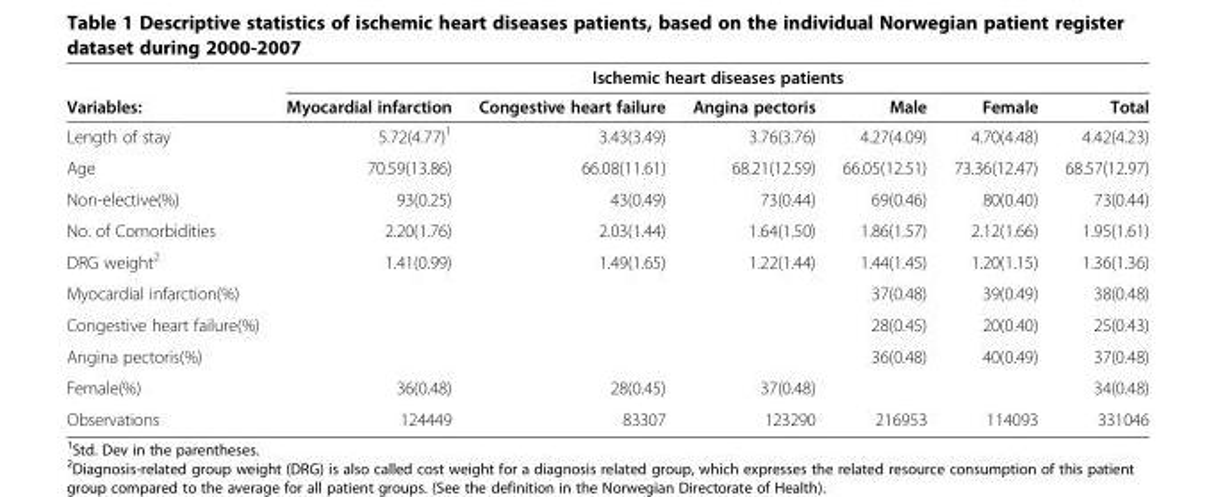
<table><thead><tr><td rowspan="2">Variables:</td><td colspan="6">Ischemic heart diseases patients</td></tr><tr><td>Myocardial infarction</td><td>Congestive heart failure</td><td>Angina pectoris</td><td>Male</td><td>Female</td><td>Total</td></tr></thead><tbody><tr><td>Length of stay</td><td>5.72(4.77)<sup>1</sup></td><td>3.43(3.49)</td><td>3.76(3.76)</td><td>4.27(4.09)</td><td>4.70(4.48)</td><td>4.42(4.23)</td></tr><tr><td>Age</td><td>70.59(13.86)</td><td>66.08(11.61)</td><td>68.21(12.59)</td><td>66.05(12.51)</td><td>73.36(12.47)</td><td>68.57(12.97)</td></tr><tr><td>Non-elective(%)</td><td>93(0.25)</td><td>43(0.49)</td><td>73(0.44)</td><td>69(0.46)</td><td>80(0.40)</td><td>73(0.44)</td></tr><tr><td>No. of Comorbidities</td><td>2.20(1.76)</td><td>2.03(1.44)</td><td>1.64(1.50)</td><td>1.86(1.57)</td><td>2.12(1.66)</td><td>1.95(1.61)</td></tr><tr><td>DRG weight<sup>2</sup></td><td>1.41(0.99)</td><td>1.49(1.65)</td><td>1.22(1.44)</td><td>1.44(1.45)</td><td>1.20(1.15)</td><td>1.36(1.36)</td></tr><tr><td>Myocardial infarction(%)</td><td></td><td></td><td></td><td>37(0.48)</td><td>39(0.49)</td><td>38(0.48)</td></tr><tr><td>Congestive heart failure(%)</td><td></td><td></td><td></td><td>28(0.45)</td><td>20(0.40)</td><td>25(0.43)</td></tr><tr><td>Angina pectoris(%)</td><td></td><td></td><td></td><td>36(0.48)</td><td>40(0.49)</td><td>37(0.48)</td></tr><tr><td>Female(%)</td><td>36(0.48)</td><td>28(0.45)</td><td>37(0.48)</td><td></td><td></td><td>34(0.48)</td></tr><tr><td>Observations</td><td>124449</td><td>83307</td><td>123290</td><td>216953</td><td>114093</td><td>331046</td></tr></tbody></table>